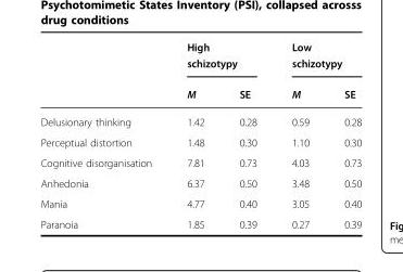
<table><thead><tr><td rowspan="2"></td><td colspan="2">High schizotypy</td><td colspan="2">Low schizotypy</td></tr><tr><td>M</td><td>SE</td><td>M</td><td>SE</td></tr></thead><tbody><tr><td>Delusionary thinking</td><td>1.42</td><td>0.28</td><td>0.59</td><td>0.28</td></tr><tr><td>Perceptual distortion</td><td>1.48</td><td>0.30</td><td>1.10</td><td>0.30</td></tr><tr><td>Cognitive disorganisation</td><td>7.81</td><td>0.73</td><td>4.03</td><td>0.73</td></tr><tr><td>Anhedonia</td><td>6.37</td><td>0.50</td><td>3.48</td><td>0.50</td></tr><tr><td>Mania</td><td>4.77</td><td>0.40</td><td>3.05</td><td>0.40</td></tr><tr><td>Paranoia</td><td>1.85</td><td>0.39</td><td>0.27</td><td>0.39</td></tr></tbody></table>